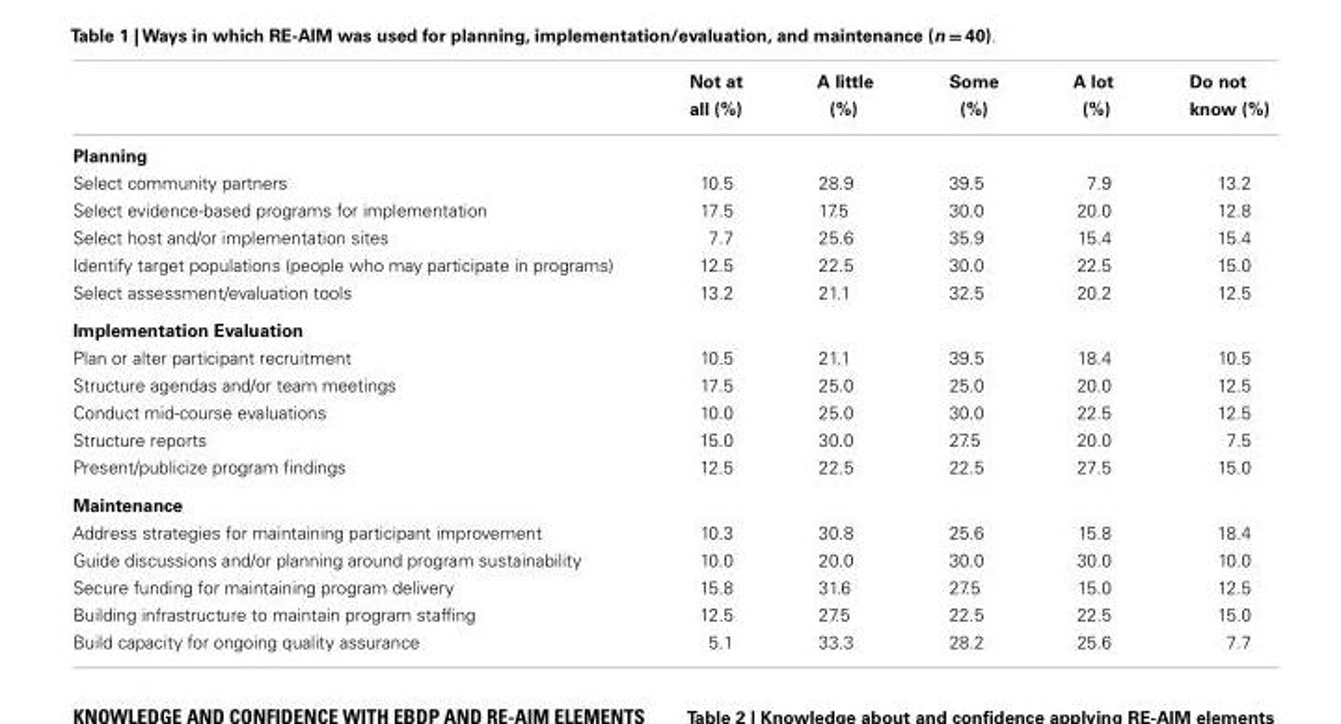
<table><thead><tr><td></td><td>Not at all (%)</td><td>A little (%)</td><td>Some (%)</td><td>A lot (%)</td><td>Do not know (%)</td></tr></thead><tbody><tr><td colspan="6">Planning</td></tr><tr><td>Select community partners</td><td>10.5</td><td>28.9</td><td>39.5</td><td>7.9</td><td>13.2</td></tr><tr><td>Select evidence-based programs for implementation</td><td>17.5</td><td>17.5</td><td>30.0</td><td>20.0</td><td>12.8</td></tr><tr><td>Select host and/or implementation sites</td><td>7.7</td><td>25.6</td><td>35.9</td><td>15.4</td><td>15.4</td></tr><tr><td>Identify target populations (people who may participate in programs)</td><td>12.5</td><td>22.5</td><td>30.0</td><td>22.5</td><td>15.0</td></tr><tr><td>Select assessment/evaluation tools</td><td>13.2</td><td>21.1</td><td>32.5</td><td>20.2</td><td>12.5</td></tr><tr><td colspan="6">Implementation Evaluation</td></tr><tr><td>Plan or alter participant recruitment</td><td>10.5</td><td>21.1</td><td>39.5</td><td>18.4</td><td>10.5</td></tr><tr><td>Structure agendas and/or team meetings</td><td>17.5</td><td>25.0</td><td>25.0</td><td>20.0</td><td>12.5</td></tr><tr><td>Conduct mid-course evaluations</td><td>10.0</td><td>25.0</td><td>30.0</td><td>22.5</td><td>12.5</td></tr><tr><td>Structure reports</td><td>15.0</td><td>30.0</td><td>27.5</td><td>20.0</td><td>7.5</td></tr><tr><td>Present/publicize program findings</td><td>12.5</td><td>22.5</td><td>22.5</td><td>27.5</td><td>15.0</td></tr><tr><td colspan="6">Maintenance</td></tr><tr><td>Address strategies for maintaining participant improvement</td><td>10.3</td><td>30.8</td><td>25.6</td><td>15.8</td><td>18.4</td></tr><tr><td>Guide discussions and/or planning around program sustainability</td><td>10.0</td><td>20.0</td><td>30.0</td><td>30.0</td><td>10.0</td></tr><tr><td>Secure funding for maintaining program delivery</td><td>15.8</td><td>31.6</td><td>27.5</td><td>15.0</td><td>12.5</td></tr><tr><td>Building infrastructure to maintain program staffing</td><td>12.5</td><td>27.5</td><td>22.5</td><td>22.5</td><td>15.0</td></tr><tr><td>Build capacity for ongoing quality assurance</td><td>5.1</td><td>33.3</td><td>28.2</td><td>25.6</td><td>7.7</td></tr></tbody></table>